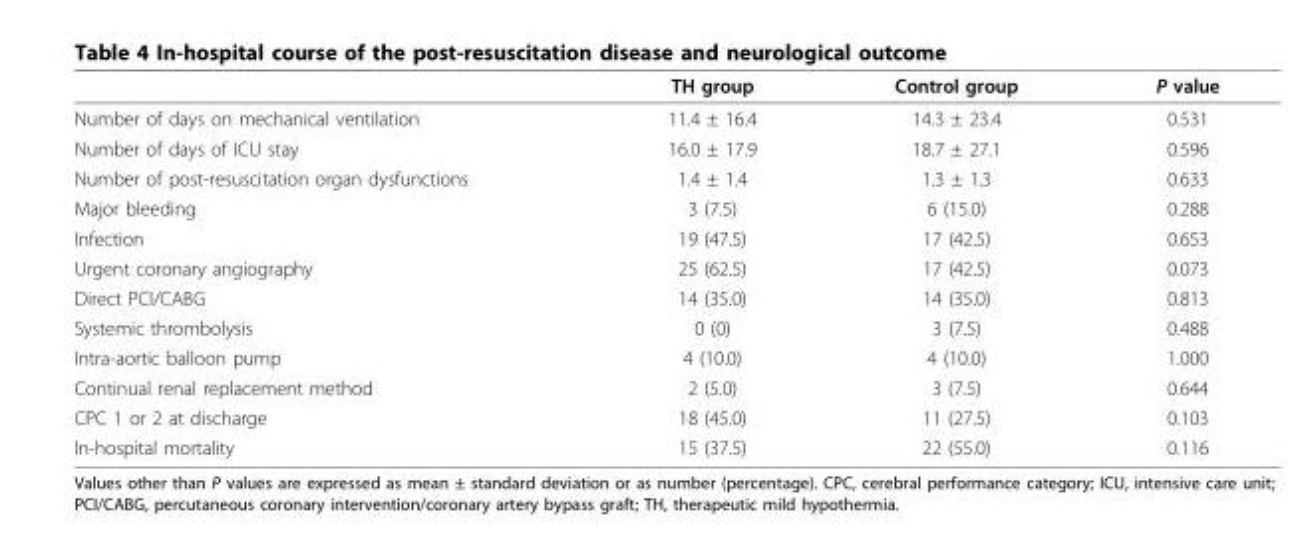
<table><thead><tr><td></td><td>TH group</td><td>Control group</td><td>P value</td></tr></thead><tbody><tr><td>Number of days on mechanical ventilation</td><td>11.4 ± 16.4</td><td>14.3 ± 23.4</td><td>0.531</td></tr><tr><td>Number of days of ICU stay</td><td>16.0 ± 17.9</td><td>18.7 ± 27.1</td><td>0.596</td></tr><tr><td>Number of post-resuscitation organ dysfunctions</td><td>1.4 ± 1.4</td><td>1.3 ± 1.3</td><td>0.633</td></tr><tr><td>Major bleeding</td><td>3 (7.5)</td><td>6 (15.0)</td><td>0.288</td></tr><tr><td>Infection</td><td>19 (47.5)</td><td>17 (42.5)</td><td>0.653</td></tr><tr><td>Urgent coronary angiography</td><td>25 (62.5)</td><td>17 (42.5)</td><td>0.073</td></tr><tr><td>Direct PCI/CABG</td><td>14 (35.0)</td><td>14 (35.0)</td><td>0.813</td></tr><tr><td>Systemic thrombolysis</td><td>0 (0)</td><td>3 (7.5)</td><td>0.488</td></tr><tr><td>Intra-aortic balloon pump</td><td>4 (10.0)</td><td>4 (10.0)</td><td>1.000</td></tr><tr><td>Continual renal replacement method</td><td>2 (5.0)</td><td>3 (7.5)</td><td>0.644</td></tr><tr><td>CPC 1 or 2 at discharge</td><td>18 (45.0)</td><td>11 (27.5)</td><td>0.103</td></tr><tr><td>In-hospital mortality</td><td>15 (37.5)</td><td>22 (55.0)</td><td>0.116</td></tr></tbody></table>